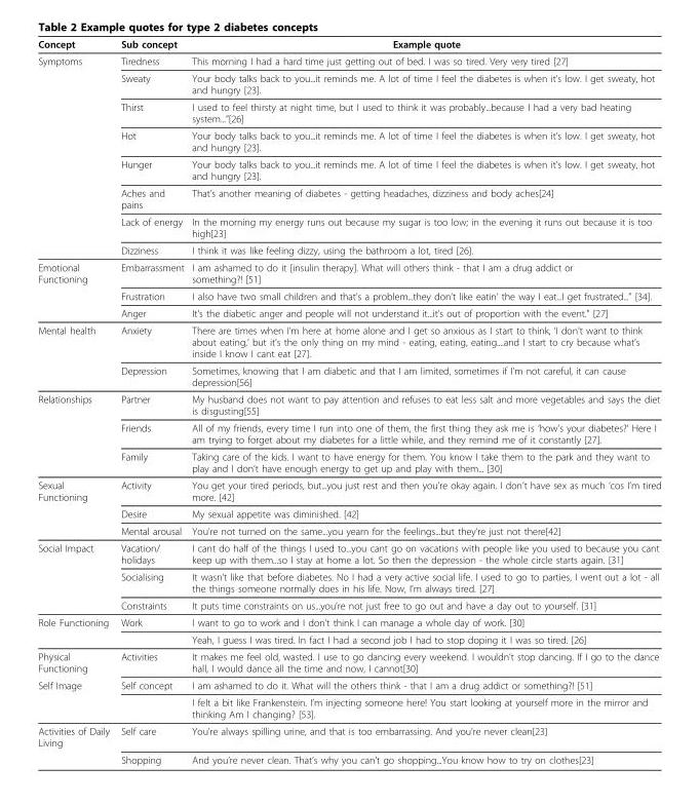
<table><thead><tr><td>Concept</td><td>Sub concept</td><td>Example quote</td></tr></thead><tbody><tr><td rowspan="8">Symptoms</td><td>Tiredness</td><td>This morning I had a hard time just getting out of bed. I was so tired. Very very tired [27]</td></tr><tr><td>Sweaty</td><td>Your body talks back to you...it reminds me. A lot of time I feel the diabetes is when it’s low. I get sweaty, hot and hungry [23].</td></tr><tr><td>Thirst</td><td>I used to feel thirsty at night time, but I used to think it was probably...because I had a very bad heating system...”[26]</td></tr><tr><td>Hot</td><td>Your body talks back to you...it reminds me. A lot of time I feel the diabetes is when it’s low. I get sweaty, hot and hungry [23].</td></tr><tr><td>Hunger</td><td>Your body talks back to you...it reminds me. A lot of time I feel the diabetes is when it’s low. I get sweaty, hot and hungry [23].</td></tr><tr><td>Aches and pains</td><td>That’s another meaning of diabetes - getting headaches, dizziness and body aches[24]</td></tr><tr><td>Lack of energy</td><td>In the morning my energy runs out because my sugar is too low; in the evening it runs out because it is too high[23]</td></tr><tr><td>Dizziness</td><td>I think it was like feeling dizzy, using the bathroom a lot, tired [26].</td></tr><tr><td rowspan="3">Emotional Functioning</td><td>Embarrassment</td><td>I am ashamed to do it [insulin therapy]. What will others think - that I am a drug addict or something?! [51]</td></tr><tr><td>Frustration</td><td>I also have two small children and that’s a problem...they don’t like eatin’ the way I eat...I get frustrated...” [34].</td></tr><tr><td>Anger</td><td>It’s the diabetic anger and people will not understand it...it’s out of proportion with the event.” [27]</td></tr><tr><td rowspan="2">Mental health</td><td>Anxiety</td><td>There are times when I’m here at home alone and I get so anxious as I start to think, ‘I don’t want to think about eating,’ but it’s the only thing on my mind - eating, eating, eating....and I start to cry because what’s inside I know I cant eat [27].</td></tr><tr><td>Depression</td><td>Sometimes, knowing that I am diabetic and that I am limited, sometimes if I’m not careful, it can cause depression[56]</td></tr><tr><td rowspan="3">Relationships</td><td>Partner</td><td>My husband does not want to pay attention and refuses to eat less salt and more vegetables and says the diet is disgusting[55]</td></tr><tr><td>Friends</td><td>All of my friends, every time I run into one of them, the first thing they ask me is ‘how’s your diabetes?’ Here I am trying to forget about my diabetes for a little while, and they remind me of it constantly [27].</td></tr><tr><td>Family</td><td>Taking care of the kids. I want to have energy for them. You know I take them to the park and they want to play and I don’t have enough energy to get up and play with them... [30]</td></tr><tr><td rowspan="3">Sexual Functioning</td><td>Activity</td><td>You get your tired periods, but...you just rest and then you’re okay again. I don’t have sex as much ‘cos I’m tired more. [42]</td></tr><tr><td>Desire</td><td>My sexual appetite was diminished. [42]</td></tr><tr><td>Mental arousal</td><td>You’re not turned on the same...you yearn for the feelings...but they’re just not there[42]</td></tr><tr><td rowspan="3">Social Impact</td><td>Vacation/ holidays</td><td>I cant do half of the things I used to...you cant go on vacations with people like you used to because you cant keep up with them...so I stay at home a lot. So then the depression - the whole circle starts again. [31]</td></tr><tr><td>Socialising</td><td>It wasn’t like that before diabetes. No I had a very active social life. I used to go to parties, I went out a lot - all the things someone normally does in his life. Now, I’m always tired. [27]</td></tr><tr><td>Constraints</td><td>It puts time constraints on us...you’re not just free to go out and have a day out to yourself. [31]</td></tr><tr><td rowspan="2">Role Functioning</td><td>Work</td><td>I want to go to work and I don’t think I can manage a whole day of work. [30]</td></tr><tr><td></td><td>Yeah, I guess I was tired. In fact I had a second job I had to stop doping it I was so tired. [26]</td></tr><tr><td>Physical Functioning</td><td>Activities</td><td>It makes me feel old, wasted. I use to go dancing every weekend. I wouldn’t stop dancing. If I go to the dance hall, I would dance all the time and now, I cannot[30]</td></tr><tr><td rowspan="2">Self Image</td><td>Self concept</td><td>I am ashamed to do it. What will the others think - that I am a drug addict or something?! [51]</td></tr><tr><td></td><td>I felt a bit like Frankenstein. I’m injecting someone here! You start looking at yourself more in the mirror and thinking Am I changing? [53].</td></tr><tr><td rowspan="2">Activities of Daily Living</td><td>Self care</td><td>You’re always spilling urine, and that is too embarrassing. And you’re never clean[23]</td></tr><tr><td>Shopping</td><td>And you’re never clean. That’s why you can’t go shopping...You know how to try on clothes[23]</td></tr></tbody></table>